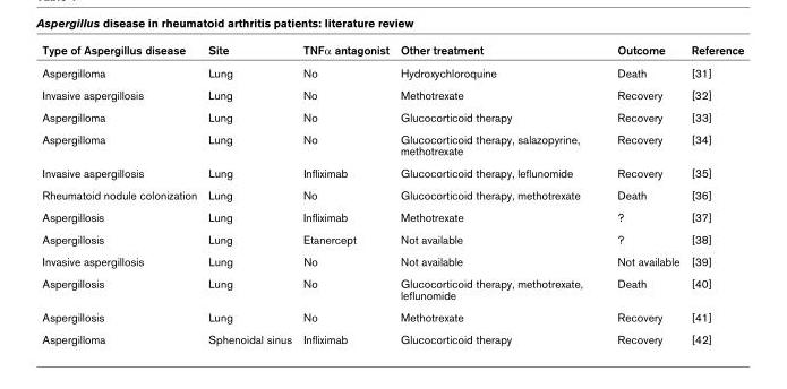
<table><thead><tr><td>Type of Aspergillus disease</td><td>Site</td><td>TNFα antagonist</td><td>Other treatment</td><td>Outcome</td><td>Reference</td></tr></thead><tbody><tr><td>Aspergilloma</td><td>Lung</td><td>No</td><td>Hydroxychloroquine</td><td>Death</td><td>[31]</td></tr><tr><td>Invasive aspergillosis</td><td>Lung</td><td>No</td><td>Methotrexate</td><td>Recovery</td><td>[32]</td></tr><tr><td>Aspergilloma</td><td>Lung</td><td>No</td><td>Glucocorticoid therapy</td><td>Recovery</td><td>[33]</td></tr><tr><td>Aspergilloma</td><td>Lung</td><td>No</td><td>Glucocorticoid therapy, salazopyrine, methotrexate</td><td>Recovery</td><td>[34]</td></tr><tr><td>Invasive aspergillosis</td><td>Lung</td><td>Infliximab</td><td>Glucocorticoid therapy, leflunomide</td><td>Recovery</td><td>[35]</td></tr><tr><td>Rheumatoid nodule colonization</td><td>Lung</td><td>No</td><td>Glucocorticoid therapy, methotrexate</td><td>Death</td><td>[36]</td></tr><tr><td>Aspergillosis</td><td>Lung</td><td>Infliximab</td><td>Methotrexate</td><td>?</td><td>[37]</td></tr><tr><td>Aspergillosis</td><td>Lung</td><td>Etanercept</td><td>Not available</td><td>?</td><td>[38]</td></tr><tr><td>Invasive aspergillosis</td><td>Lung</td><td>No</td><td>Not available</td><td>Not available</td><td>[39]</td></tr><tr><td>Aspergillosis</td><td>Lung</td><td>No</td><td>Glucocorticoid therapy, methotrexate, leflunomide</td><td>Death</td><td>[40]</td></tr><tr><td>Aspergillosis</td><td>Lung</td><td>No</td><td>Methotrexate</td><td>Recovery</td><td>[41]</td></tr><tr><td>Aspergilloma</td><td>Sphenoidal sinus</td><td>Infliximab</td><td>Glucocorticoid therapy</td><td>Recovery</td><td>[42]</td></tr></tbody></table>